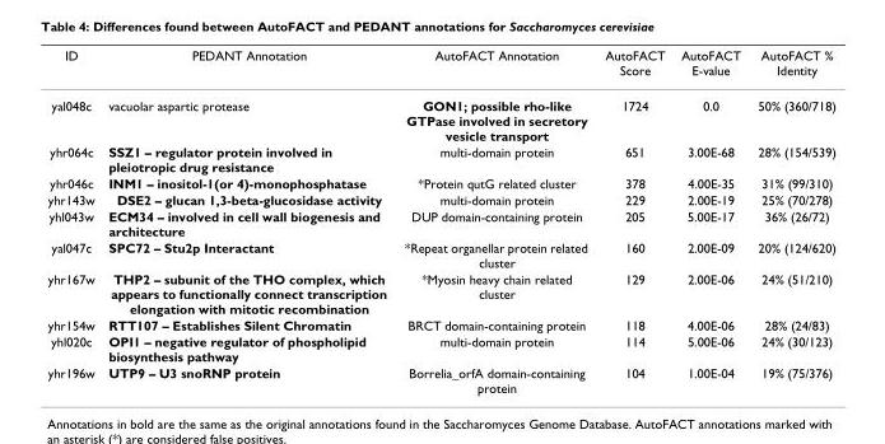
<table><thead><tr><td>ID</td><td>PEDANT Annotation</td><td>AutoFACT Annotation</td><td>AutoFACT Score</td><td>AutoFACT E-value</td><td>AutoFACT % Identity</td></tr></thead><tbody><tr><td>yal048c</td><td>vacuolar aspartic protease</td><td>GON1; possible rho-like GTPase involved in secretory vesicle transport</td><td>1724</td><td>0.0</td><td>50% (360/718)</td></tr><tr><td>yhr064c</td><td>SSZ1 – regulator protein involved in pleiotropic drug resistance</td><td>multi-domain protein</td><td>651</td><td>3.00E-68</td><td>28% (154/539)</td></tr><tr><td>yhr046c</td><td>INM1 – inositol-1(or 4)-monophosphatase</td><td>*Protein qutG related cluster</td><td>378</td><td>4.00E-35</td><td>31% (99/310)</td></tr><tr><td>yhr143w</td><td>DSE2 – glucan 1,3-beta-glucosidase activity</td><td>multi-domain protein</td><td>229</td><td>2.00E-19</td><td>25% (70/278)</td></tr><tr><td>yhl043w</td><td>ECM34 – involved in cell wall biogenesis and architecture</td><td>DUP domain-containing protein</td><td>205</td><td>5.00E-17</td><td>36% (26/72)</td></tr><tr><td>yal047c</td><td>SPC72 – Stu2p Interactant</td><td>*Repeat organellar protein related cluster</td><td>160</td><td>2.00E-09</td><td>20% (124/620)</td></tr><tr><td>yhr167w</td><td>THP2 – subunit of the THO complex, which appears to functionally connect transcription elongation with mitotic recombination</td><td>*Myosin heavy chain related cluster</td><td>129</td><td>2.00E-06</td><td>24% (51/210)</td></tr><tr><td>yhr154w</td><td>RTT107 – Establishes Silent Chromatin</td><td>BRCT domain-containing protein</td><td>118</td><td>4.00E-06</td><td>28% (24/83)</td></tr><tr><td>yhl020c</td><td>OPI1 – negative regulator of phospholipid biosynthesis pathway</td><td>multi-domain protein</td><td>114</td><td>5.00E-06</td><td>24% (30/123)</td></tr><tr><td>yhr196w</td><td>UTP9 – U3 snoRNP protein</td><td>Borrelia_orfA domain-containing protein</td><td>104</td><td>1.00E-04</td><td>19% (75/376)</td></tr></tbody></table>